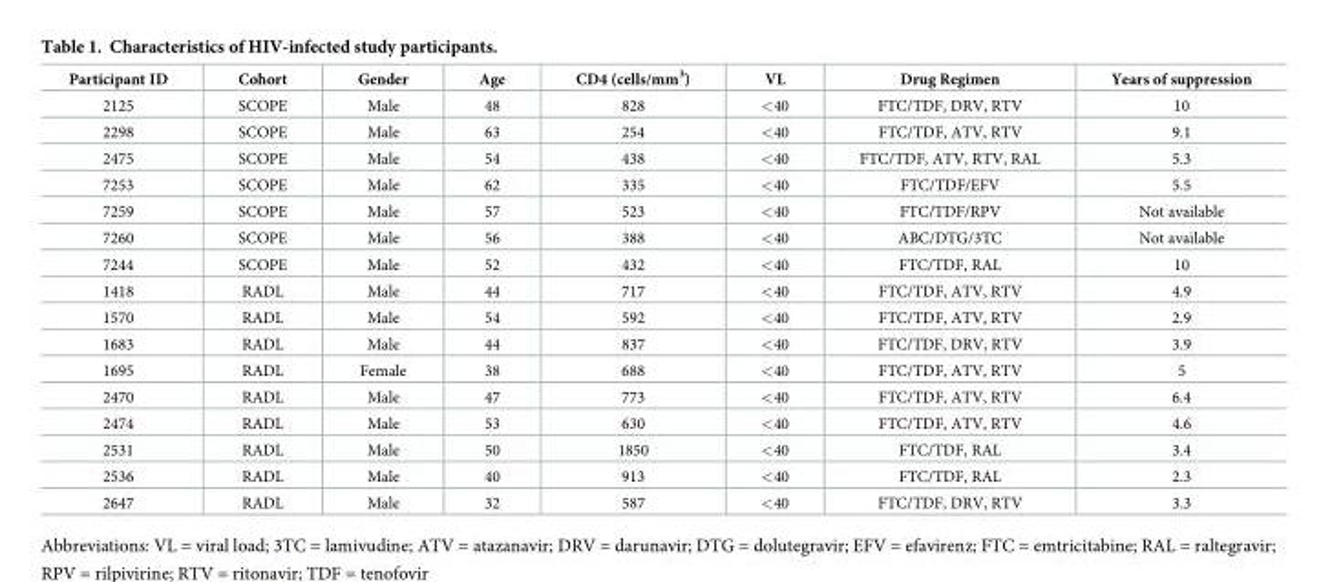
<table><thead><tr><td>Participant ID</td><td>Cohort</td><td>Gender</td><td>Age</td><td>CD4 (cells/mm<sup>3</sup>)</td><td>VL</td><td>Drug Regimen</td><td>Years of suppression</td></tr></thead><tbody><tr><td>2125</td><td>SCOPE</td><td>Male</td><td>48</td><td>828</td><td>&lt;40</td><td>FTC/TDF, DRV, RTV</td><td>10</td></tr><tr><td>2298</td><td>SCOPE</td><td>Male</td><td>63</td><td>254</td><td>&lt;40</td><td>FTC/TDF, ATV, RTV</td><td>9.1</td></tr><tr><td>2475</td><td>SCOPE</td><td>Male</td><td>54</td><td>438</td><td>&lt;40</td><td>FTC/TDF, ATV, RTV, RAL</td><td>5.3</td></tr><tr><td>7253</td><td>SCOPE</td><td>Male</td><td>62</td><td>335</td><td>&lt;40</td><td>FTC/TDF/EFV</td><td>5.5</td></tr><tr><td>7259</td><td>SCOPE</td><td>Male</td><td>57</td><td>523</td><td>&lt;40</td><td>FTC/TDF/RPV</td><td>Not available</td></tr><tr><td>7260</td><td>SCOPE</td><td>Male</td><td>56</td><td>388</td><td>&lt;40</td><td>ABC/DTG/3TC</td><td>Not available</td></tr><tr><td>7244</td><td>SCOPE</td><td>Male</td><td>52</td><td>432</td><td>&lt;40</td><td>FTC/TDF, RAL</td><td>10</td></tr><tr><td>1418</td><td>RADL</td><td>Male</td><td>44</td><td>717</td><td>&lt;40</td><td>FTC/TDF, ATV, RTV</td><td>4.9</td></tr><tr><td>1570</td><td>RADL</td><td>Male</td><td>54</td><td>592</td><td>&lt;40</td><td>FTC/TDF, ATV, RTV</td><td>2.9</td></tr><tr><td>1683</td><td>RADL</td><td>Male</td><td>44</td><td>837</td><td>&lt;40</td><td>FTC/TDF, DRV, RTV</td><td>3.9</td></tr><tr><td>1695</td><td>RADL</td><td>Female</td><td>38</td><td>688</td><td>&lt;40</td><td>FTC/TDF, ATV, RTV</td><td>5</td></tr><tr><td>2470</td><td>RADL</td><td>Male</td><td>47</td><td>773</td><td>&lt;40</td><td>FTC/TDF, ATV, RTV</td><td>6.4</td></tr><tr><td>2474</td><td>RADL</td><td>Male</td><td>53</td><td>630</td><td>&lt;40</td><td>FTC/TDF, ATV, RTV</td><td>4.6</td></tr><tr><td>2531</td><td>RADL</td><td>Male</td><td>50</td><td>1850</td><td>&lt;40</td><td>FTC/TDF, RAL</td><td>3.4</td></tr><tr><td>2536</td><td>RADL</td><td>Male</td><td>40</td><td>913</td><td>&lt;40</td><td>FTC/TDF, RAL</td><td>2.3</td></tr><tr><td>2647</td><td>RADL</td><td>Male</td><td>32</td><td>587</td><td>&lt;40</td><td>FTC/TDF, DRV, RTV</td><td>3.3</td></tr></tbody></table>